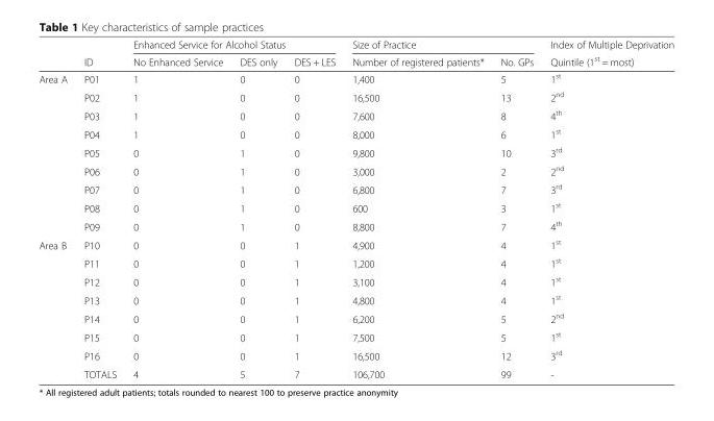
<table><thead><tr><td rowspan="2"></td><td rowspan="2">ID</td><td colspan="3">Enhanced Service for Alcohol Status</td><td colspan="2">Size of Practice</td><td rowspan="2">Index of Multiple Deprivation Quintile (1<sup>st</sup> = most)</td></tr><tr><td>No Enhanced Service</td><td>DES only</td><td>DES + LES</td><td>Number of registered patients*</td><td>No. GPs</td></tr></thead><tbody><tr><td rowspan="9">Area A</td><td>P01</td><td>1</td><td>0</td><td>0</td><td>1,400</td><td>5</td><td>1<sup>st</sup></td></tr><tr><td>P02</td><td>1</td><td>0</td><td>0</td><td>16,500</td><td>13</td><td>2<sup>nd</sup></td></tr><tr><td>P03</td><td>1</td><td>0</td><td>0</td><td>7,600</td><td>8</td><td>4<sup>th</sup></td></tr><tr><td>P04</td><td>1</td><td>0</td><td>0</td><td>8,000</td><td>6</td><td>1<sup>st</sup></td></tr><tr><td>P05</td><td>0</td><td>1</td><td>0</td><td>9,800</td><td>10</td><td>3<sup>rd</sup></td></tr><tr><td>P06</td><td>0</td><td>1</td><td>0</td><td>3,000</td><td>2</td><td>2<sup>nd</sup></td></tr><tr><td>P07</td><td>0</td><td>1</td><td>0</td><td>6,800</td><td>7</td><td>3<sup>rd</sup></td></tr><tr><td>P08</td><td>0</td><td>1</td><td>0</td><td>600</td><td>3</td><td>1<sup>st</sup></td></tr><tr><td>P09</td><td>0</td><td>1</td><td>0</td><td>8,800</td><td>7</td><td>4<sup>th</sup></td></tr><tr><td rowspan="8">Area B</td><td>P10</td><td>0</td><td>0</td><td>1</td><td>4,900</td><td>4</td><td>1<sup>st</sup></td></tr><tr><td>P11</td><td>0</td><td>0</td><td>1</td><td>1,200</td><td>4</td><td>1<sup>st</sup></td></tr><tr><td>P12</td><td>0</td><td>0</td><td>1</td><td>3,100</td><td>4</td><td>1<sup>st</sup></td></tr><tr><td>P13</td><td>0</td><td>0</td><td>1</td><td>4,800</td><td>4</td><td>1<sup>st</sup></td></tr><tr><td>P14</td><td>0</td><td>0</td><td>1</td><td>6,200</td><td>5</td><td>2<sup>nd</sup></td></tr><tr><td>P15</td><td>0</td><td>0</td><td>1</td><td>7,500</td><td>5</td><td>1<sup>st</sup></td></tr><tr><td>P16</td><td>0</td><td>0</td><td>1</td><td>16,500</td><td>12</td><td>3<sup>rd</sup></td></tr><tr><td>TOTALS</td><td>4</td><td>5</td><td>7</td><td>106,700</td><td>99</td><td>-</td></tr></tbody></table>